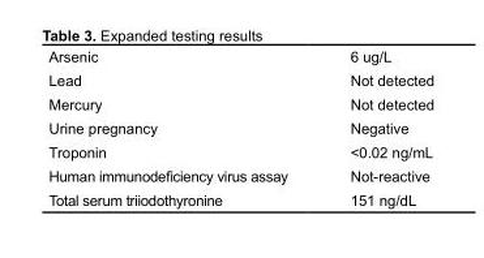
<table><tbody><tr><td>Arsenic</td><td>6 ug/L</td></tr><tr><td>Lead</td><td>Not detected</td></tr><tr><td>Mercury</td><td>Not detected</td></tr><tr><td>Urine pregnancy</td><td>Negative</td></tr><tr><td>Troponin</td><td>&lt;0.02 ng/mL</td></tr><tr><td>Human immunodeficiency virus assay</td><td>Not-reactive</td></tr><tr><td>Total serum triiodothyronine</td><td>151 ng/dL</td></tr></tbody></table>